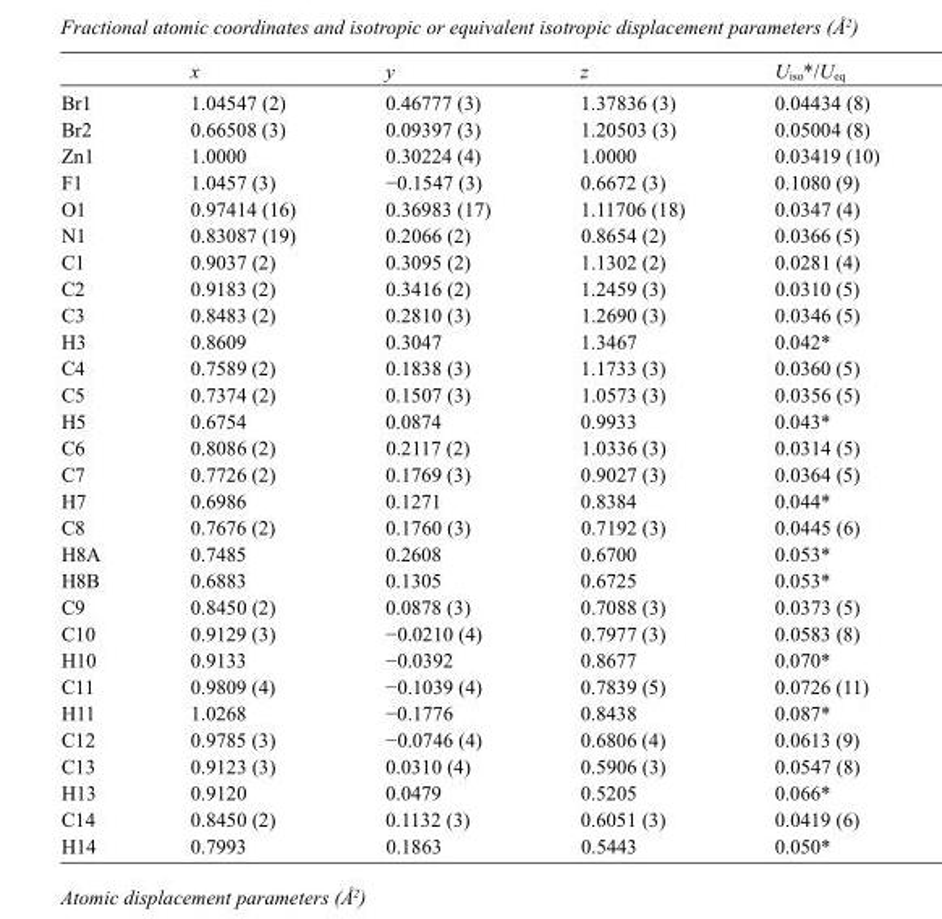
<table><thead><tr><td></td><td>x</td><td>y</td><td>z</td><td>U<sub>iso</sub>*/U<sub>eq</sub></td></tr></thead><tbody><tr><td>Br1</td><td>1.04547 (2)</td><td>0.46777 (3)</td><td>1.37836 (3)</td><td>0.04434 (8)</td></tr><tr><td>Br2</td><td>0.66508 (3)</td><td>0.09397 (3)</td><td>1.20503 (3)</td><td>0.05004 (8)</td></tr><tr><td>Zn1</td><td>1.0000</td><td>0.30224 (4)</td><td>1.0000</td><td>0.03419 (10)</td></tr><tr><td>F1</td><td>1.0457 (3)</td><td>−0.1547 (3)</td><td>0.6672 (3)</td><td>0.1080 (9)</td></tr><tr><td>O1</td><td>0.97414 (16)</td><td>0.36983 (17)</td><td>1.11706 (18)</td><td>0.0347 (4)</td></tr><tr><td>N1</td><td>0.83087 (19)</td><td>0.2066 (2)</td><td>0.8654 (2)</td><td>0.0366 (5)</td></tr><tr><td>C1</td><td>0.9037 (2)</td><td>0.3095 (2)</td><td>1.1302 (2)</td><td>0.0281 (4)</td></tr><tr><td>C2</td><td>0.9183 (2)</td><td>0.3416 (2)</td><td>1.2459 (3)</td><td>0.0310 (5)</td></tr><tr><td>C3</td><td>0.8483 (2)</td><td>0.2810 (3)</td><td>1.2690 (3)</td><td>0.0346 (5)</td></tr><tr><td>H3</td><td>0.8609</td><td>0.3047</td><td>1.3467</td><td>0.042*</td></tr><tr><td>C4</td><td>0.7589 (2)</td><td>0.1838 (3)</td><td>1.1733 (3)</td><td>0.0360 (5)</td></tr><tr><td>C5</td><td>0.7374 (2)</td><td>0.1507 (3)</td><td>1.0573 (3)</td><td>0.0356 (5)</td></tr><tr><td>H5</td><td>0.6754</td><td>0.0874</td><td>0.9933</td><td>0.043*</td></tr><tr><td>C6</td><td>0.8086 (2)</td><td>0.2117 (2)</td><td>1.0336 (3)</td><td>0.0314 (5)</td></tr><tr><td>C7</td><td>0.7726 (2)</td><td>0.1769 (3)</td><td>0.9027 (3)</td><td>0.0364 (5)</td></tr><tr><td>H7</td><td>0.6986</td><td>0.1271</td><td>0.8384</td><td>0.044*</td></tr><tr><td>C8</td><td>0.7676 (2)</td><td>0.1760 (3)</td><td>0.7192 (3)</td><td>0.0445 (6)</td></tr><tr><td>H8A</td><td>0.7485</td><td>0.2608</td><td>0.6700</td><td>0.053*</td></tr><tr><td>H8B</td><td>0.6883</td><td>0.1305</td><td>0.6725</td><td>0.053*</td></tr><tr><td>C9</td><td>0.8450 (2)</td><td>0.0878 (3)</td><td>0.7088 (3)</td><td>0.0373 (5)</td></tr><tr><td>C10</td><td>0.9129 (3)</td><td>−0.0210 (4)</td><td>0.7977 (3)</td><td>0.0583 (8)</td></tr><tr><td>H10</td><td>0.9133</td><td>−0.0392</td><td>0.8677</td><td>0.070*</td></tr><tr><td>C11</td><td>0.9809 (4)</td><td>−0.1039 (4)</td><td>0.7839 (5)</td><td>0.0726 (11)</td></tr><tr><td>H11</td><td>1.0268</td><td>−0.1776</td><td>0.8438</td><td>0.087*</td></tr><tr><td>C12</td><td>0.9785 (3)</td><td>−0.0746 (4)</td><td>0.6806 (4)</td><td>0.0613 (9)</td></tr><tr><td>C13</td><td>0.9123 (3)</td><td>0.0310 (4)</td><td>0.5906 (3)</td><td>0.0547 (8)</td></tr><tr><td>H13</td><td>0.9120</td><td>0.0479</td><td>0.5205</td><td>0.066*</td></tr><tr><td>C14</td><td>0.8450 (2)</td><td>0.1132 (3)</td><td>0.6051 (3)</td><td>0.0419 (6)</td></tr><tr><td>H14</td><td>0.7993</td><td>0.1863</td><td>0.5443</td><td>0.050*</td></tr></tbody></table>